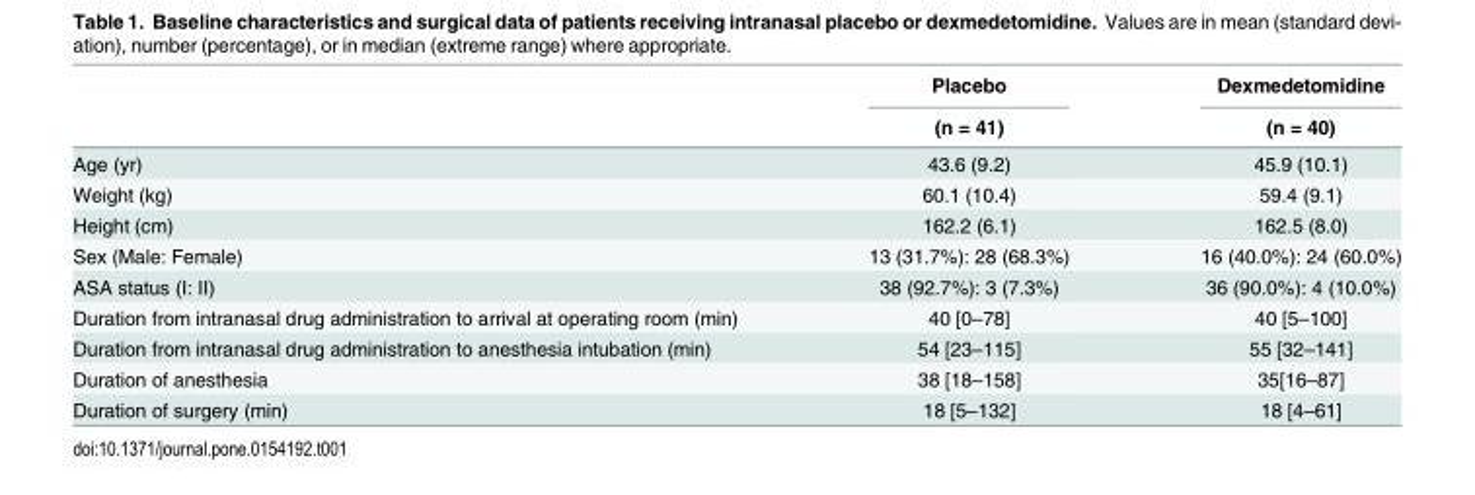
<table><thead><tr><td rowspan="2"></td><td rowspan="2">Placebo (n = 41)</td><td rowspan="2">Dexmedetomidine (n = 40)</td></tr><tr></tr></thead><tbody><tr><td>Age (yr)</td><td>43.6 (9.2)</td><td>45.9 (10.1)</td></tr><tr><td>Weight (kg)</td><td>60.1 (10.4)</td><td>59.4 (9.1)</td></tr><tr><td>Height (cm)</td><td>162.2 (6.1)</td><td>162.5 (8.0)</td></tr><tr><td>Sex (Male: Female)</td><td>13 (31.7%): 28 (68.3%)</td><td>16 (40.0%): 24 (60.0%)</td></tr><tr><td>ASA status (I: II)</td><td>38 (92.7%): 3 (7.3%)</td><td>36 (90.0%): 4 (10.0%)</td></tr><tr><td>Duration from intranasal drug administration to arrival at operating room (min)</td><td>40 [0–78]</td><td>40 [5–100]</td></tr><tr><td>Duration from intranasal drug administration to anesthesia intubation (min)</td><td>54 [23–115]</td><td>55 [32–141]</td></tr><tr><td>Duration of anesthesia</td><td>38 [18–158]</td><td>35[16–87]</td></tr><tr><td>Duration of surgery (min)</td><td>18 [5–132]</td><td>18 [4–61]</td></tr></tbody></table>